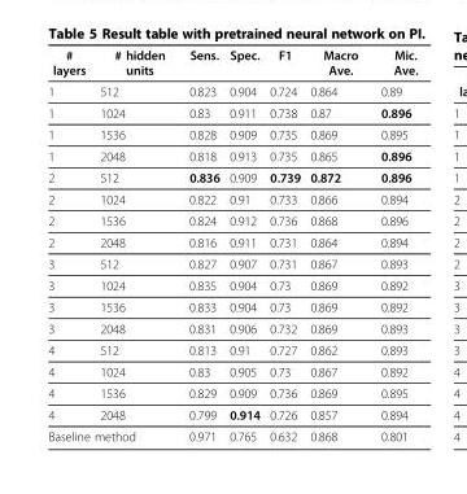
<table><thead><tr><td># layers</td><td># hidden units</td><td>Sens.</td><td>Spec.</td><td>F1</td><td>Macro Ave.</td><td>Mic. Ave.</td></tr></thead><tbody><tr><td>1</td><td>512</td><td>0.823</td><td>0.904</td><td>0.724</td><td>0.864</td><td>0.89</td></tr><tr><td>1</td><td>1024</td><td>0.83</td><td>0.911</td><td>0.738</td><td>0.87</td><td>0.896</td></tr><tr><td>1</td><td>1536</td><td>0.828</td><td>0.909</td><td>0.735</td><td>0.869</td><td>0.895</td></tr><tr><td>1</td><td>2048</td><td>0.818</td><td>0.913</td><td>0.735</td><td>0.865</td><td>0.896</td></tr><tr><td>2</td><td>512</td><td>0.836</td><td>0.909</td><td>0.739</td><td>0.872</td><td>0.896</td></tr><tr><td>2</td><td>1024</td><td>0.822</td><td>0.91</td><td>0.733</td><td>0.866</td><td>0.894</td></tr><tr><td>2</td><td>1536</td><td>0.824</td><td>0.912</td><td>0.736</td><td>0.868</td><td>0.896</td></tr><tr><td>2</td><td>2048</td><td>0.816</td><td>0.911</td><td>0.731</td><td>0.864</td><td>0.894</td></tr><tr><td>3</td><td>512</td><td>0.827</td><td>0.907</td><td>0.731</td><td>0.867</td><td>0.893</td></tr><tr><td>3</td><td>1024</td><td>0.835</td><td>0.904</td><td>0.73</td><td>0.869</td><td>0.892</td></tr><tr><td>3</td><td>1536</td><td>0.833</td><td>0.904</td><td>0.73</td><td>0.869</td><td>0.892</td></tr><tr><td>3</td><td>2048</td><td>0.831</td><td>0.906</td><td>0.732</td><td>0.869</td><td>0.893</td></tr><tr><td>4</td><td>512</td><td>0.813</td><td>0.91</td><td>0.727</td><td>0.862</td><td>0.893</td></tr><tr><td>4</td><td>1024</td><td>0.83</td><td>0.905</td><td>0.73</td><td>0.867</td><td>0.892</td></tr><tr><td>4</td><td>1536</td><td>0.829</td><td>0.909</td><td>0.736</td><td>0.869</td><td>0.895</td></tr><tr><td>4</td><td>2048</td><td>0.799</td><td>0.914</td><td>0.726</td><td>0.857</td><td>0.894</td></tr><tr><td colspan="2">Baseline method</td><td>0.971</td><td>0.765</td><td>0.632</td><td>0.868</td><td>0.801</td></tr></tbody></table>